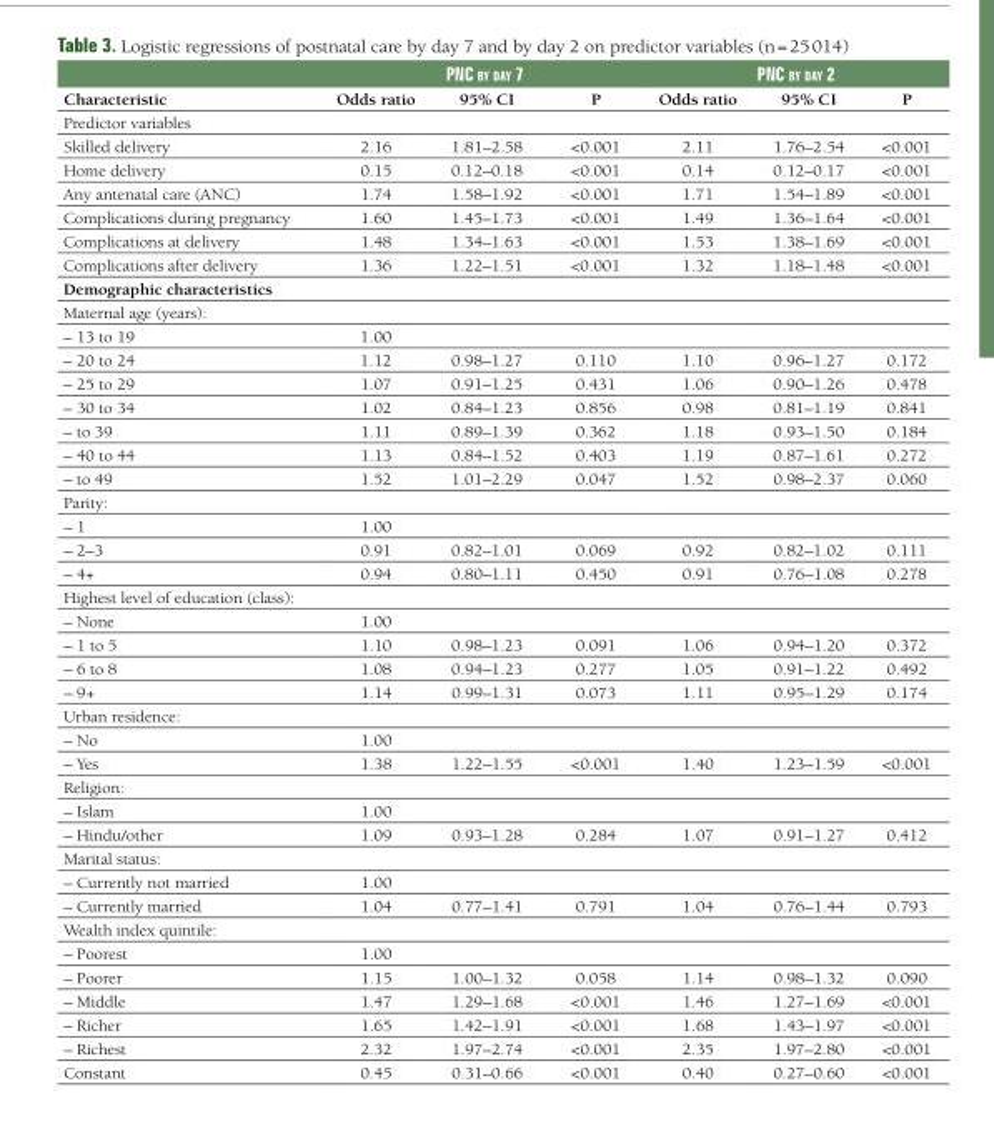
<table><thead><tr><td rowspan="2">Characteristic</td><td colspan="3">PNC by day 7</td><td colspan="3">PNC by day 2</td></tr><tr><td>Odds ratio</td><td>95% CI</td><td>P</td><td>Odds ratio</td><td>95% CI</td><td>P</td></tr></thead><tbody><tr><td colspan="7">Predictor variables</td></tr><tr><td>Skilled delivery</td><td>2.16</td><td>1.81–2.58</td><td>&lt;0.001</td><td>2.11</td><td>1.76–2.54</td><td>&lt;0.001</td></tr><tr><td>Home delivery</td><td>0.15</td><td>0.12–0.18</td><td>&lt;0.001</td><td>0.14</td><td>0.12–0.17</td><td>&lt;0.001</td></tr><tr><td>Any antenatal care (ANC)</td><td>1.74</td><td>1.58–1.92</td><td>&lt;0.001</td><td>1.71</td><td>1.54–1.89</td><td>&lt;0.001</td></tr><tr><td>Complications during pregnancy</td><td>1.60</td><td>1.45–1.73</td><td>&lt;0.001</td><td>1.49</td><td>1.36–1.64</td><td>&lt;0.001</td></tr><tr><td>Complications at delivery</td><td>1.48</td><td>1.34–1.63</td><td>&lt;0.001</td><td>1.53</td><td>1.38–1.69</td><td>&lt;0.001</td></tr><tr><td>Complications after delivery</td><td>1.36</td><td>1.22–1.51</td><td>&lt;0.001</td><td>1.32</td><td>1.18–1.48</td><td>&lt;0.001</td></tr><tr><td colspan="7">Demographic characteristics</td></tr><tr><td colspan="7">Maternal age (years):</td></tr><tr><td>– 13 to 19</td><td>1.00</td><td></td><td></td><td></td><td></td><td></td></tr><tr><td>– 20 to 24</td><td>1.12</td><td>0.98–1.27</td><td>0.110</td><td>1.10</td><td>0.96–1.27</td><td>0.172</td></tr><tr><td>– 25 to 29</td><td>1.07</td><td>0.91–1.25</td><td>0.431</td><td>1.06</td><td>0.90–1.26</td><td>0.478</td></tr><tr><td>– 30 to 34</td><td>1.02</td><td>0.84–1.23</td><td>0.856</td><td>0.98</td><td>0.81–1.19</td><td>0.841</td></tr><tr><td>– to 39</td><td>1.11</td><td>0.89–1.39</td><td>0.362</td><td>1.18</td><td>0.93–1.50</td><td>0.184</td></tr><tr><td>– 40 to 44</td><td>1.13</td><td>0.84–1.52</td><td>0.403</td><td>1.19</td><td>0.87–1.61</td><td>0.272</td></tr><tr><td>– to 49</td><td>1.52</td><td>1.01–2.29</td><td>0.047</td><td>1.52</td><td>0.98–2.37</td><td>0.060</td></tr><tr><td colspan="7">Parity:</td></tr><tr><td>– 1</td><td>1.00</td><td></td><td></td><td></td><td></td><td></td></tr><tr><td>– 2–3</td><td>0.91</td><td>0.82–1.01</td><td>0.069</td><td>0.92</td><td>0.82–1.02</td><td>0.111</td></tr><tr><td>– 4+</td><td>0.94</td><td>0.80–1.11</td><td>0.450</td><td>0.91</td><td>0.76–1.08</td><td>0.278</td></tr><tr><td colspan="7">Highest level of education (class):</td></tr><tr><td>– None</td><td>1.00</td><td></td><td></td><td></td><td></td><td></td></tr><tr><td>– 1 to 5</td><td>1.10</td><td>0.98–1.23</td><td>0.091</td><td>1.06</td><td>0.94–1.20</td><td>0.372</td></tr><tr><td>– 6 to 8</td><td>1.08</td><td>0.94–1.23</td><td>0.277</td><td>1.05</td><td>0.91–1.22</td><td>0.492</td></tr><tr><td>– 9+</td><td>1.14</td><td>0.99–1.31</td><td>0.073</td><td>1.11</td><td>0.95–1.29</td><td>0.174</td></tr><tr><td colspan="7">Urban residence:</td></tr><tr><td>– No</td><td>1.00</td><td></td><td></td><td></td><td></td><td></td></tr><tr><td>– Yes</td><td>1.38</td><td>1.22–1.55</td><td>&lt;0.001</td><td>1.40</td><td>1.23–1.59</td><td>&lt;0.001</td></tr><tr><td colspan="7">Religion:</td></tr><tr><td>– Islam</td><td>1.00</td><td></td><td></td><td></td><td></td><td></td></tr><tr><td>– Hindu/other</td><td>1.09</td><td>0.93–1.28</td><td>0.284</td><td>1.07</td><td>0.91–1.27</td><td>0.412</td></tr><tr><td colspan="7">Marital status:</td></tr><tr><td>– Currently not married</td><td>1.00</td><td></td><td></td><td></td><td></td><td></td></tr><tr><td>– Currently married</td><td>1.04</td><td>0.77–1.41</td><td>0.791</td><td>1.04</td><td>0.76–1.44</td><td>0.793</td></tr><tr><td colspan="7">Wealth index quintile:</td></tr><tr><td>– Poorest</td><td>1.00</td><td></td><td></td><td></td><td></td><td></td></tr><tr><td>– Poorer</td><td>1.15</td><td>1.00–1.32</td><td>0.058</td><td>1.14</td><td>0.98–1.32</td><td>0.090</td></tr><tr><td>– Middle</td><td>1.47</td><td>1.29–1.68</td><td>&lt;0.001</td><td>1.46</td><td>1.27–1.69</td><td>&lt;0.001</td></tr><tr><td>– Richer</td><td>1.65</td><td>1.42–1.91</td><td>&lt;0.001</td><td>1.68</td><td>1.43–1.97</td><td>&lt;0.001</td></tr><tr><td>– Richest</td><td>2.32</td><td>1.97–2.74</td><td>&lt;0.001</td><td>2.35</td><td>1.97–2.80</td><td>&lt;0.001</td></tr><tr><td>Constant</td><td>0.45</td><td>0.31–0.66</td><td>&lt;0.001</td><td>0.40</td><td>0.27–0.60</td><td>&lt;0.001</td></tr></tbody></table>